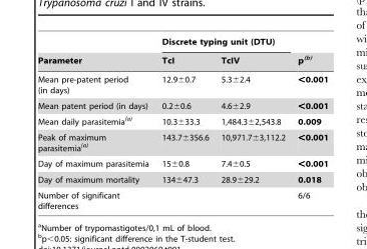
<table><thead><tr><td rowspan="2">Parameter</td><td colspan="2">Discrete typing unit (DTU)</td><td rowspan="2">p(b)</td></tr><tr><td>TcI</td><td>TcIV</td></tr></thead><tbody><tr><td>Mean pre-patent period (in days)</td><td>12.9±0.7</td><td>5.3±2.4</td><td>&lt;0.001</td></tr><tr><td>Mean patent period (in days)</td><td>0.2±0.6</td><td>4.6±2.9</td><td>&lt;0.001</td></tr><tr><td>Mean daily parasitemia(a)</td><td>10.3±33.3</td><td>1,484.3±2,543.8</td><td>0.009</td></tr><tr><td>Peak of maximum parasitemia(a)</td><td>143.7±356.6</td><td>10,971.7±3,112.2</td><td>&lt;0.001</td></tr><tr><td>Day of maximum parasitemia</td><td>15±0.8</td><td>7.4±0.5</td><td>&lt;0.001</td></tr><tr><td>Day of maximum mortality</td><td>134±47.3</td><td>28.9±29.2</td><td>0.018</td></tr><tr><td colspan="3">Number of significant differences</td><td>6/6</td></tr></tbody></table>